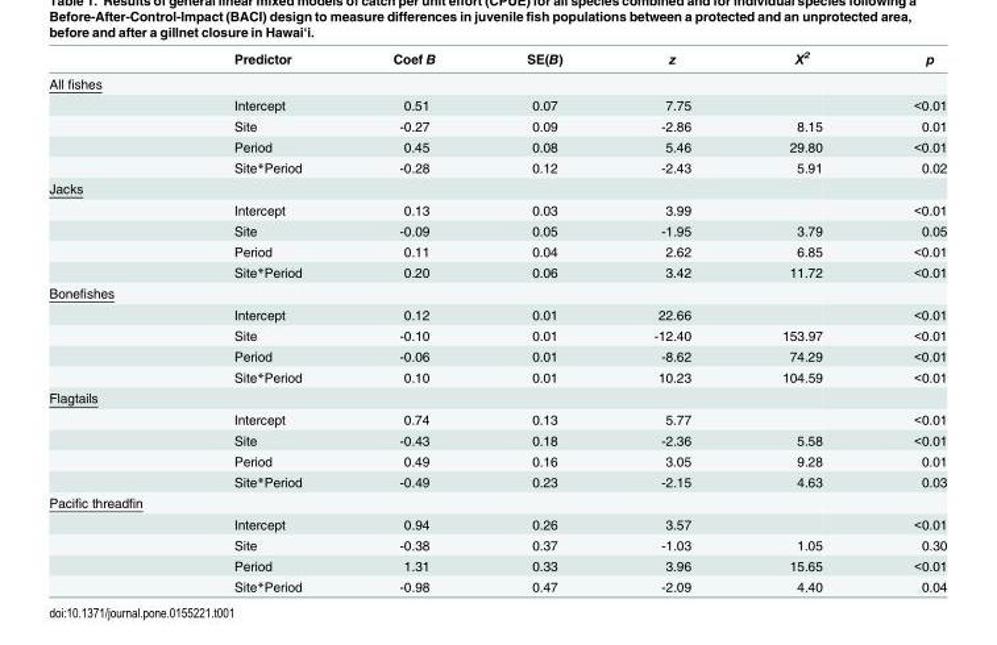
<table><thead><tr><td></td><td>Predictor</td><td>Coef B</td><td>SE(B)</td><td>z</td><td>X<sup>2</sup></td><td>p</td></tr></thead><tbody><tr><td colspan="7">All fishes</td></tr><tr><td></td><td>Intercept</td><td>0.51</td><td>0.07</td><td>7.75</td><td></td><td>&lt;0.01</td></tr><tr><td></td><td>Site</td><td>-0.27</td><td>0.09</td><td>-2.86</td><td>8.15</td><td>0.01</td></tr><tr><td></td><td>Period</td><td>0.45</td><td>0.08</td><td>5.46</td><td>29.80</td><td>&lt;0.01</td></tr><tr><td></td><td>Site*Period</td><td>-0.28</td><td>0.12</td><td>-2.43</td><td>5.91</td><td>0.02</td></tr><tr><td colspan="7">Jacks</td></tr><tr><td></td><td>Intercept</td><td>0.13</td><td>0.03</td><td>3.99</td><td></td><td>&lt;0.01</td></tr><tr><td></td><td>Site</td><td>-0.09</td><td>0.05</td><td>-1.95</td><td>3.79</td><td>0.05</td></tr><tr><td></td><td>Period</td><td>0.11</td><td>0.04</td><td>2.62</td><td>6.85</td><td>&lt;0.01</td></tr><tr><td></td><td>Site*Period</td><td>0.20</td><td>0.06</td><td>3.42</td><td>11.72</td><td>&lt;0.01</td></tr><tr><td colspan="7">Bonefishes</td></tr><tr><td></td><td>Intercept</td><td>0.12</td><td>0.01</td><td>22.66</td><td></td><td>&lt;0.01</td></tr><tr><td></td><td>Site</td><td>-0.10</td><td>0.01</td><td>-12.40</td><td>153.97</td><td>&lt;0.01</td></tr><tr><td></td><td>Period</td><td>-0.06</td><td>0.01</td><td>-8.62</td><td>74.29</td><td>&lt;0.01</td></tr><tr><td></td><td>Site*Period</td><td>0.10</td><td>0.01</td><td>10.23</td><td>104.59</td><td>&lt;0.01</td></tr><tr><td colspan="7">Flagtails</td></tr><tr><td></td><td>Intercept</td><td>0.74</td><td>0.13</td><td>5.77</td><td></td><td>&lt;0.01</td></tr><tr><td></td><td>Site</td><td>-0.43</td><td>0.18</td><td>-2.36</td><td>5.58</td><td>&lt;0.01</td></tr><tr><td></td><td>Period</td><td>0.49</td><td>0.16</td><td>3.05</td><td>9.28</td><td>0.01</td></tr><tr><td></td><td>Site*Period</td><td>-0.49</td><td>0.23</td><td>-2.15</td><td>4.63</td><td>0.03</td></tr><tr><td colspan="7">Pacific threadfin</td></tr><tr><td></td><td>Intercept</td><td>0.94</td><td>0.26</td><td>3.57</td><td></td><td>&lt;0.01</td></tr><tr><td></td><td>Site</td><td>-0.38</td><td>0.37</td><td>-1.03</td><td>1.05</td><td>0.30</td></tr><tr><td></td><td>Period</td><td>1.31</td><td>0.33</td><td>3.96</td><td>15.65</td><td>&lt;0.01</td></tr><tr><td></td><td>Site*Period</td><td>-0.98</td><td>0.47</td><td>-2.09</td><td>4.40</td><td>0.04</td></tr></tbody></table>